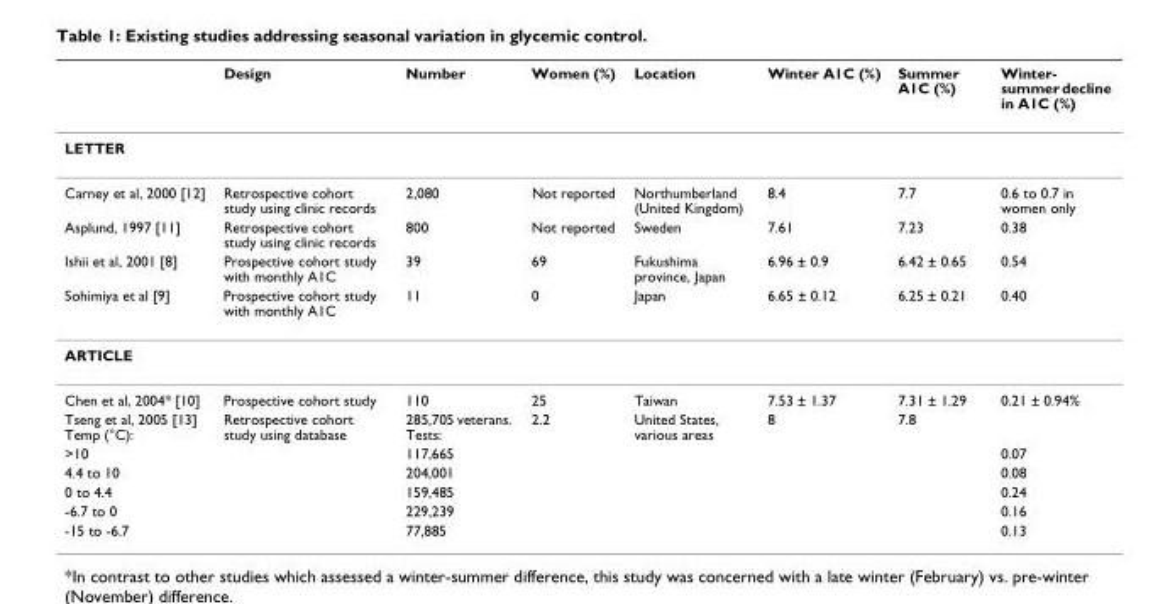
<table><thead><tr><td></td><td>Design</td><td>Number</td><td>Women (%)</td><td>Location</td><td>Winter A1C (%)</td><td>Summer A1C (%)</td><td>Winter- summer decline in A1C (%)</td></tr></thead><tbody><tr><td colspan="8">LETTER</td></tr><tr><td>Carney et al, 2000 [12]</td><td>Retrospective cohort study using clinic records</td><td>2,080</td><td>Not reported</td><td>Northumberland (United Kingdom)</td><td>8.4</td><td>7.7</td><td>0.6 to 0.7 in women only</td></tr><tr><td>Asplund, 1997 [11]</td><td>Retrospective cohort study using clinic records</td><td>800</td><td>Not reported</td><td>Sweden</td><td>7.61</td><td>7.23</td><td>0.38</td></tr><tr><td>Ishii et al, 2001 [8]</td><td>Prospective cohort study with monthly A1C</td><td>39</td><td>69</td><td>Fukushima province, Japan</td><td>6.96 ± 0.9</td><td>6.42 ± 0.65</td><td>0.54</td></tr><tr><td>Sohimiya et al [9]</td><td>Prospective cohort study with monthly A1C</td><td>11</td><td>0</td><td>Japan</td><td>6.65 ± 0.12</td><td>6.25 ± 0.21</td><td>0.40</td></tr><tr><td colspan="8">ARTICLE</td></tr><tr><td>Chen et al, 2004* [10]</td><td>Prospective cohort study</td><td>110</td><td>25</td><td>Taiwan</td><td>7.53 ± 1.37</td><td>7.31 ± 1.29</td><td>0.21 ± 0.94%</td></tr><tr><td>Tseng et al, 2005 [13] Temp (°C):</td><td>Retrospective cohort study using database</td><td>285,705 veterans. Tests:</td><td>2.2</td><td>United States, various areas</td><td>8</td><td>7.8</td><td></td></tr><tr><td>&gt;10</td><td></td><td>117,665</td><td></td><td></td><td></td><td></td><td>0.07</td></tr><tr><td>4.4 to 10</td><td></td><td>204,001</td><td></td><td></td><td></td><td></td><td>0.08</td></tr><tr><td>0 to 4.4</td><td></td><td>159,485</td><td></td><td></td><td></td><td></td><td>0.24</td></tr><tr><td>-6.7 to 0</td><td></td><td>229,239</td><td></td><td></td><td></td><td></td><td>0.16</td></tr><tr><td>-15 to -6.7</td><td></td><td>77,885</td><td></td><td></td><td></td><td></td><td>0.13</td></tr></tbody></table>